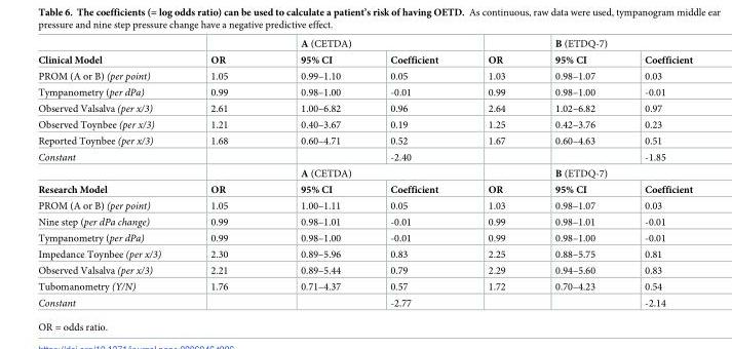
<table><thead><tr><td rowspan="2">Clinical Model</td><td rowspan="2">OR</td><td colspan="2">A (CETDA)</td><td rowspan="2">OR</td><td colspan="2">B (ETDQ-7)</td></tr><tr><td>95% CI</td><td>Coefficient</td><td>95% CI</td><td>Coefficient</td></tr></thead><tbody><tr><td>PROM (A or B) (per point)</td><td>1.05</td><td>0.99–1.10</td><td>0.05</td><td>1.03</td><td>0.98–1.07</td><td>0.03</td></tr><tr><td>Tympanometry (per dPa)</td><td>0.99</td><td>0.98–1.00</td><td>-0.01</td><td>0.99</td><td>0.98–1.00</td><td>-0.01</td></tr><tr><td>Observed Valsalva (per x/3)</td><td>2.61</td><td>1.00–6.82</td><td>0.96</td><td>2.64</td><td>1.02–6.82</td><td>0.97</td></tr><tr><td>Observed Toynbee (per x/3)</td><td>1.21</td><td>0.40–3.67</td><td>0.19</td><td>1.25</td><td>0.42–3.76</td><td>0.23</td></tr><tr><td>Reported Toynbee (per x/3)</td><td>1.68</td><td>0.60–4.71</td><td>0.52</td><td>1.67</td><td>0.60–4.63</td><td>0.51</td></tr><tr><td rowspan="2">Constant</td><td></td><td></td><td>-2.40</td><td></td><td></td><td>-1.85</td></tr><tr><td></td><td colspan="2">A (CETDA)</td><td></td><td colspan="2">B (ETDQ-7)</td></tr><tr><td>Research Model</td><td>OR</td><td>95% CI</td><td>Coefficient</td><td>OR</td><td>95% CI</td><td>Coefficient</td></tr><tr><td>PROM (A or B) (per point)</td><td>1.05</td><td>1.00–1.11</td><td>0.05</td><td>1.03</td><td>0.98–1.07</td><td>0.03</td></tr><tr><td>Nine step (per dPa change)</td><td>0.99</td><td>0.98–1.01</td><td>-0.01</td><td>0.99</td><td>0.98–1.01</td><td>-0.01</td></tr><tr><td>Tympanometry (per dPa)</td><td>0.99</td><td>0.98–1.00</td><td>-0.01</td><td>0.99</td><td>0.98–1.00</td><td>-0.01</td></tr><tr><td>Impedance Toynbee (per x/3)</td><td>2.30</td><td>0.89–5.96</td><td>0.83</td><td>2.25</td><td>0.88–5.75</td><td>0.81</td></tr><tr><td>Observed Valsalva (per x/3)</td><td>2.21</td><td>0.89–5.44</td><td>0.79</td><td>2.29</td><td>0.94–5.60</td><td>0.83</td></tr><tr><td>Tubomanometry (Y/N)</td><td>1.76</td><td>0.71–4.37</td><td>0.57</td><td>1.72</td><td>0.70–4.23</td><td>0.54</td></tr><tr><td>Constant</td><td></td><td></td><td>-2.77</td><td></td><td></td><td>-2.14</td></tr></tbody></table>